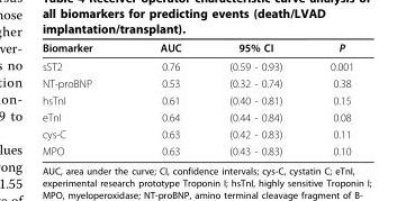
<table><thead><tr><td>Biomarker</td><td>AUC</td><td>95% CI</td><td>P</td></tr></thead><tbody><tr><td>sST2</td><td>0.76</td><td>(0.59 - 0.93)</td><td>0.001</td></tr><tr><td>NT-proBNP</td><td>0.53</td><td>(0.32 - 0.74)</td><td>0.38</td></tr><tr><td>hsTnI</td><td>0.61</td><td>(0.40 - 0.81)</td><td>0.15</td></tr><tr><td>eTnI</td><td>0.64</td><td>(0.44 - 0.84)</td><td>0.08</td></tr><tr><td>cys-C</td><td>0.63</td><td>(0.42 - 0.83)</td><td>0.11</td></tr><tr><td>MPO</td><td>0.63</td><td>(0.43 - 0.83)</td><td>0.10</td></tr></tbody></table>